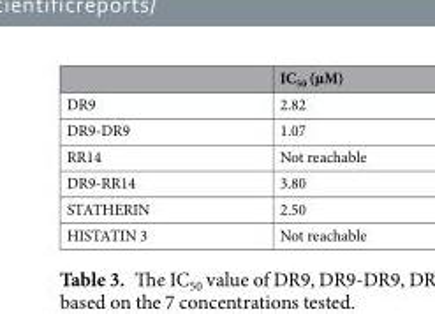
<table><thead><tr><td></td><td>IC<sub>50</sub> (µM)</td></tr></thead><tbody><tr><td>DR9</td><td>2.82</td></tr><tr><td>DR9-DR9</td><td>1.07</td></tr><tr><td>RR14</td><td>Not reachable</td></tr><tr><td>DR9-RR14</td><td>3.80</td></tr><tr><td>STATHERIN</td><td>2.50</td></tr><tr><td>HISTATIN 3</td><td>Not reachable</td></tr></tbody></table>